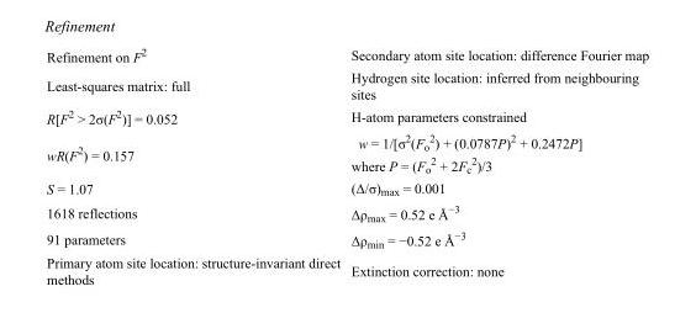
<table><tbody><tr><td>Refinement on F<sup>2</sup></td><td>Secondary atom site location: difference Fourier map</td></tr><tr><td>Least-squares matrix: full</td><td>Hydrogen site location: inferred from neighbouring sites</td></tr><tr><td>R[F<sup>2</sup> &gt; 2σ(F<sup>2</sup>)] = 0.052</td><td>H-atom parameters constrained</td></tr><tr><td>wR(F<sup>2</sup>) = 0.157</td><td>w = 1/[σ<sup>2</sup>(F<sub>o</sub> <sup>2</sup>) + (0.0787P)<sup>2</sup> + 0.2472P] where P = (F<sub>o</sub> <sup>2</sup> + 2F<sub>c</sub> <sup>2</sup>)/3</td></tr><tr><td>S = 1.07</td><td>(Δ/σ)<sub>max</sub> = 0.001</td></tr><tr><td>1618 reflections</td><td>Δρ<sub>max</sub> = 0.52 e Å<sup>−3</sup></td></tr><tr><td>91 parameters</td><td>Δρ<sub>min</sub> = −0.52 e Å<sup>−3</sup></td></tr><tr><td>Primary atom site location: structure-invariant direct methods</td><td>Extinction correction: none</td></tr></tbody></table>